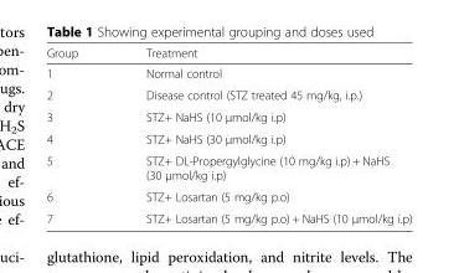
<table><thead><tr><td>Group</td><td>Treatment</td></tr></thead><tbody><tr><td>1</td><td>Normal control</td></tr><tr><td>2</td><td>Disease control (STZ treated 45 mg/kg, i.p.)</td></tr><tr><td>3</td><td>STZ+ NaHS (10 μmol/kg i.p)</td></tr><tr><td>4</td><td>STZ+ NaHS (30 μmol/kg i.p)</td></tr><tr><td>5</td><td>STZ+ DL-Propergylglycine (10 mg/kg i.p) + NaHS (30 μmol/kg i.p)</td></tr><tr><td>6</td><td>STZ+ Losartan (5 mg/kg p.o)</td></tr><tr><td>7</td><td>STZ+ Losartan (5 mg/kg p.o) + NaHS (10 μmol/kg i.p)</td></tr></tbody></table>